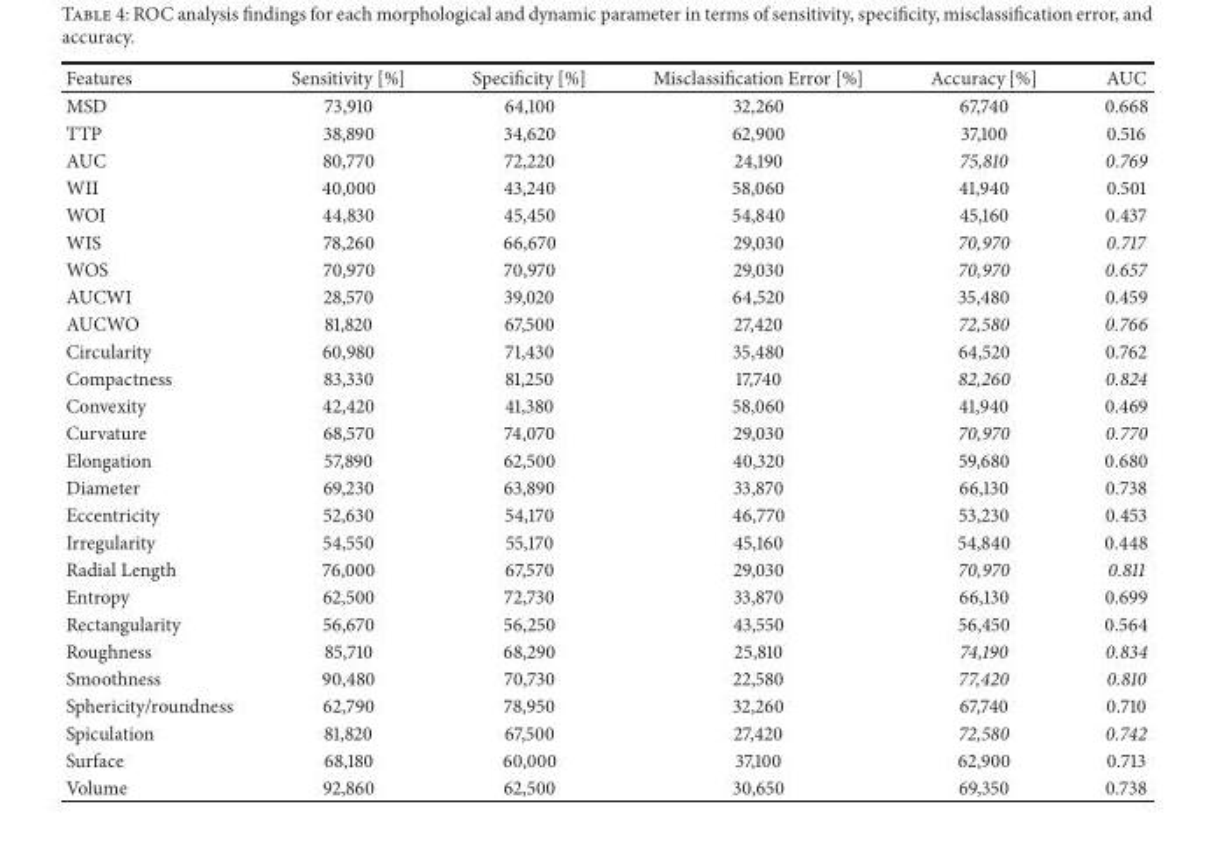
<table><thead><tr><td>Features</td><td>Sensitivity [%]</td><td>Specificity [%]</td><td>Misclassification Error [%]</td><td>Accuracy [%]</td><td>AUC</td></tr></thead><tbody><tr><td>MSD</td><td>73,910</td><td>64,100</td><td>32,260</td><td>67,740</td><td>0.668</td></tr><tr><td>TTP</td><td>38,890</td><td>34,620</td><td>62,900</td><td>37,100</td><td>0.516</td></tr><tr><td>AUC</td><td>80,770</td><td>72,220</td><td>24,190</td><td>75,810</td><td>0.769</td></tr><tr><td>WII</td><td>40,000</td><td>43,240</td><td>58,060</td><td>41,940</td><td>0.501</td></tr><tr><td>WOI</td><td>44,830</td><td>45,450</td><td>54,840</td><td>45,160</td><td>0.437</td></tr><tr><td>WIS</td><td>78,260</td><td>66,670</td><td>29,030</td><td>70,970</td><td>0.717</td></tr><tr><td>WOS</td><td>70,970</td><td>70,970</td><td>29,030</td><td>70,970</td><td>0.657</td></tr><tr><td>AUCWI</td><td>28,570</td><td>39,020</td><td>64,520</td><td>35,480</td><td>0.459</td></tr><tr><td>AUCWO</td><td>81,820</td><td>67,500</td><td>27,420</td><td>72,580</td><td>0.766</td></tr><tr><td>Circularity</td><td>60,980</td><td>71,430</td><td>35,480</td><td>64,520</td><td>0.762</td></tr><tr><td>Compactness</td><td>83,330</td><td>81,250</td><td>17,740</td><td>82,260</td><td>0.824</td></tr><tr><td>Convexity</td><td>42,420</td><td>41,380</td><td>58,060</td><td>41,940</td><td>0.469</td></tr><tr><td>Curvature</td><td>68,570</td><td>74,070</td><td>29,030</td><td>70,970</td><td>0.770</td></tr><tr><td>Elongation</td><td>57,890</td><td>62,500</td><td>40,320</td><td>59,680</td><td>0.680</td></tr><tr><td>Diameter</td><td>69,230</td><td>63,890</td><td>33,870</td><td>66,130</td><td>0.738</td></tr><tr><td>Eccentricity</td><td>52,630</td><td>54,170</td><td>46,770</td><td>53,230</td><td>0.453</td></tr><tr><td>Irregularity</td><td>54,550</td><td>55,170</td><td>45,160</td><td>54,840</td><td>0.448</td></tr><tr><td>Radial Length</td><td>76,000</td><td>67,570</td><td>29,030</td><td>70,970</td><td>0.811</td></tr><tr><td>Entropy</td><td>62,500</td><td>72,730</td><td>33,870</td><td>66,130</td><td>0.699</td></tr><tr><td>Rectangularity</td><td>56,670</td><td>56,250</td><td>43,550</td><td>56,450</td><td>0.564</td></tr><tr><td>Roughness</td><td>85,710</td><td>68,290</td><td>25,810</td><td>74,190</td><td>0.834</td></tr><tr><td>Smoothness</td><td>90,480</td><td>70,730</td><td>22,580</td><td>77,420</td><td>0.810</td></tr><tr><td>Sphericity/roundness</td><td>62,790</td><td>78,950</td><td>32,260</td><td>67,740</td><td>0.710</td></tr><tr><td>Spiculation</td><td>81,820</td><td>67,500</td><td>27,420</td><td>72,580</td><td>0.742</td></tr><tr><td>Surface</td><td>68,180</td><td>60,000</td><td>37,100</td><td>62,900</td><td>0.713</td></tr><tr><td>Volume</td><td>92,860</td><td>62,500</td><td>30,650</td><td>69,350</td><td>0.738</td></tr></tbody></table>